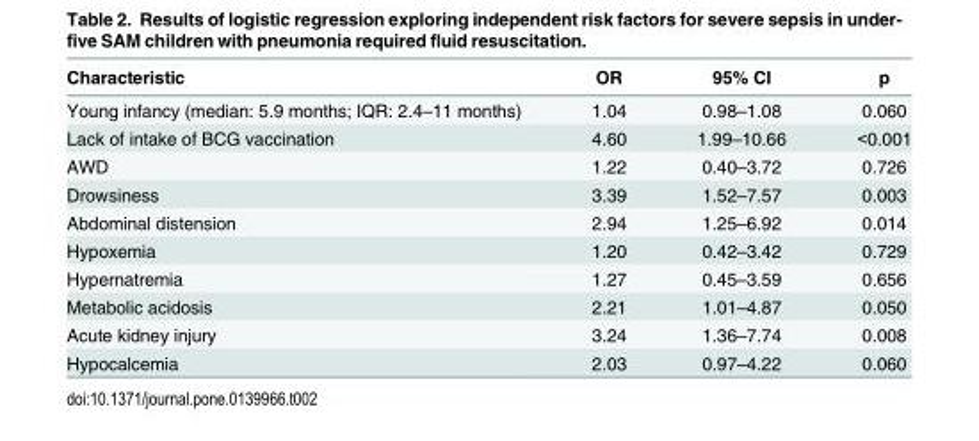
<table><thead><tr><td>Characteristic</td><td>OR</td><td>95% CI</td><td>p</td></tr></thead><tbody><tr><td>Young infancy (median: 5.9 months; IQR: 2.4–11 months)</td><td>1.04</td><td>0.98–1.08</td><td>0.060</td></tr><tr><td>Lack of intake of BCG vaccination</td><td>4.60</td><td>1.99–10.66</td><td>&lt;0.001</td></tr><tr><td>AWD</td><td>1.22</td><td>0.40–3.72</td><td>0.726</td></tr><tr><td>Drowsiness</td><td>3.39</td><td>1.52–7.57</td><td>0.003</td></tr><tr><td>Abdominal distension</td><td>2.94</td><td>1.25–6.92</td><td>0.014</td></tr><tr><td>Hypoxemia</td><td>1.20</td><td>0.42–3.42</td><td>0.729</td></tr><tr><td>Hypernatremia</td><td>1.27</td><td>0.45–3.59</td><td>0.656</td></tr><tr><td>Metabolic acidosis</td><td>2.21</td><td>1.01–4.87</td><td>0.050</td></tr><tr><td>Acute kidney injury</td><td>3.24</td><td>1.36–7.74</td><td>0.008</td></tr><tr><td>Hypocalcemia</td><td>2.03</td><td>0.97–4.22</td><td>0.060</td></tr></tbody></table>